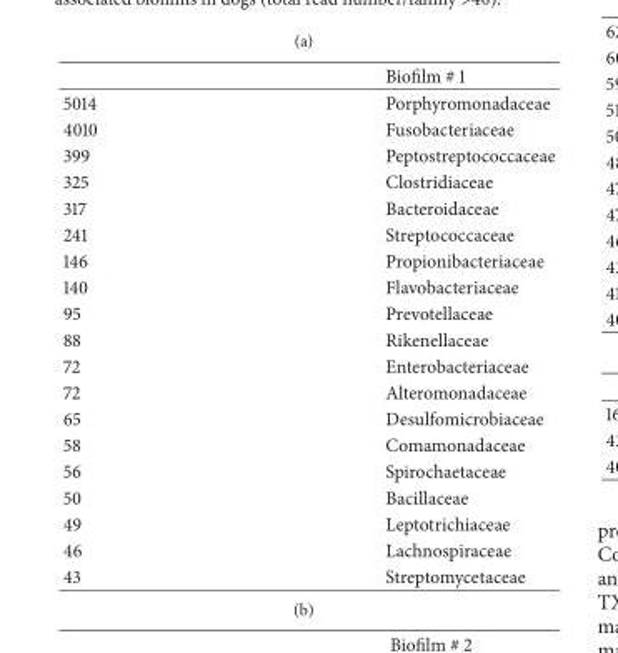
<table><thead><tr><td></td><td>Biofilm # 1</td></tr></thead><tbody><tr><td>5014</td><td>Porphyromonadaceae</td></tr><tr><td>4010</td><td>Fusobacteriaceae</td></tr><tr><td>399</td><td>Peptostreptococcaceae</td></tr><tr><td>325</td><td>Clostridiaceae</td></tr><tr><td>317</td><td>Bacteroidaceae</td></tr><tr><td>241</td><td>Streptococcaceae</td></tr><tr><td>146</td><td>Propionibacteriaceae</td></tr><tr><td>140</td><td>Flavobacteriaceae</td></tr><tr><td>95</td><td>Prevotellaceae</td></tr><tr><td>88</td><td>Rikenellaceae</td></tr><tr><td>72</td><td>Enterobacteriaceae</td></tr><tr><td>72</td><td>Alteromonadaceae</td></tr><tr><td>65</td><td>Desulfomicrobiaceae</td></tr><tr><td>58</td><td>Comamonadaceae</td></tr><tr><td>56</td><td>Spirochaetaceae</td></tr><tr><td>50</td><td>Bacillaceae</td></tr><tr><td>49</td><td>Leptotrichiaceae</td></tr><tr><td>46</td><td>Lachnospiraceae</td></tr><tr><td>43</td><td>Streptomycetaceae</td></tr></tbody></table>